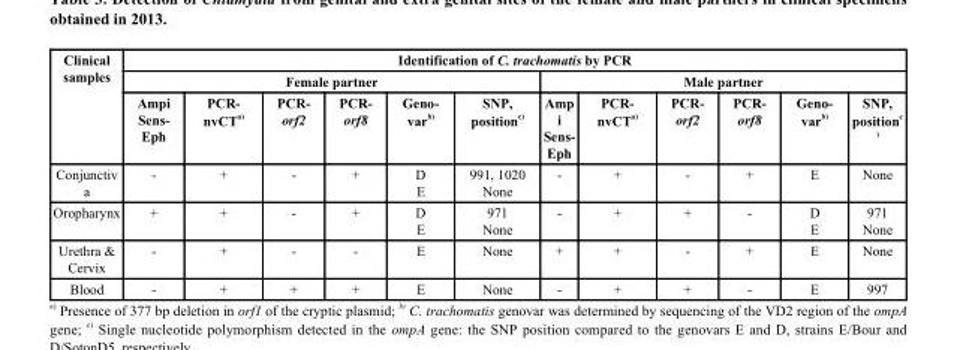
<table><thead><tr><td rowspan="3">Clinical samples</td><td colspan="12">Identification of С. trachomatis by PCR</td></tr><tr><td colspan="6">Female partner</td><td colspan="6">Male partner</td></tr><tr><td>Ampi Sens- Eph</td><td>PCR- nvCT <sup>a)</sup></td><td>PCR- orf2</td><td>PCR- orf8</td><td>Geno- var <sup>b)</sup></td><td>SNP, position <sup>c)</sup></td><td>Amp i Sens- Eph</td><td>PCR- nvCT <sup>a)</sup></td><td>PCR- orf2</td><td>PCR- orf8</td><td>Geno- var <sup>b)</sup></td><td>SNP, position <sup>c )</sup></td></tr></thead><tbody><tr><td>Conjunctiv a</td><td>-</td><td>+</td><td>-</td><td>+</td><td>D E</td><td>991, 1020 None</td><td>-</td><td>+</td><td>-</td><td>+</td><td>E</td><td>None</td></tr><tr><td>Oropharynx</td><td>+</td><td>+</td><td>-</td><td>+</td><td>D E</td><td>971 None</td><td>-</td><td>+</td><td>+</td><td>-</td><td>D E</td><td>971 None</td></tr><tr><td>Urethra &amp; Cervix</td><td>-</td><td>+</td><td>-</td><td>-</td><td>E</td><td>None</td><td>+</td><td>+</td><td>-</td><td>+</td><td>E</td><td>None</td></tr><tr><td>Blood</td><td>-</td><td>+</td><td>+</td><td>+</td><td>E</td><td>None</td><td>-</td><td>+</td><td>+</td><td>-</td><td>E</td><td>997</td></tr></tbody></table>